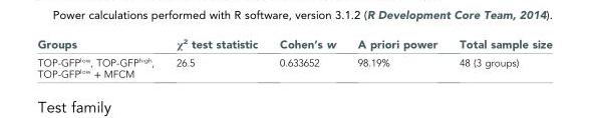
<table><thead><tr><td>Groups</td><td>χ<sup>2</sup> test statistic</td><td>Cohen’s w</td><td>A priori power</td><td>Total sample size</td></tr></thead><tbody><tr><td>TOP-GFP<sup>low</sup>, TOP-GFP<sup>high</sup>, TOP-GFP<sup>low</sup> + MFCM</td><td>26.5</td><td>0.633652</td><td>98.19%</td><td>48 (3 groups)</td></tr></tbody></table>